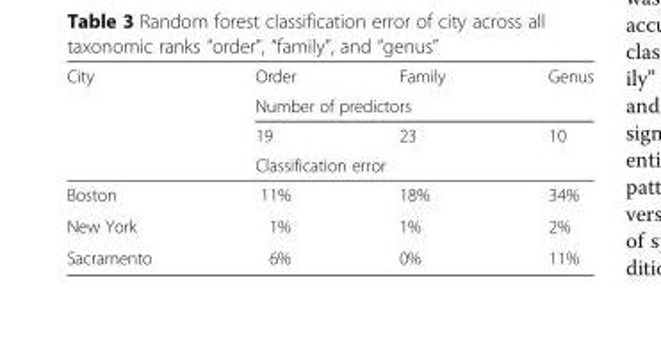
<table><thead><tr><td rowspan="4">City</td><td>Order</td><td>Family</td><td>Genus</td></tr><tr><td colspan="3">Number of predictors</td></tr><tr><td>19</td><td>23</td><td>10</td></tr><tr><td colspan="3">Classification error</td></tr></thead><tbody><tr><td>Boston</td><td>11%</td><td>18%</td><td>34%</td></tr><tr><td>New York</td><td>1%</td><td>1%</td><td>2%</td></tr><tr><td>Sacramento</td><td>6%</td><td>0%</td><td>11%</td></tr></tbody></table>